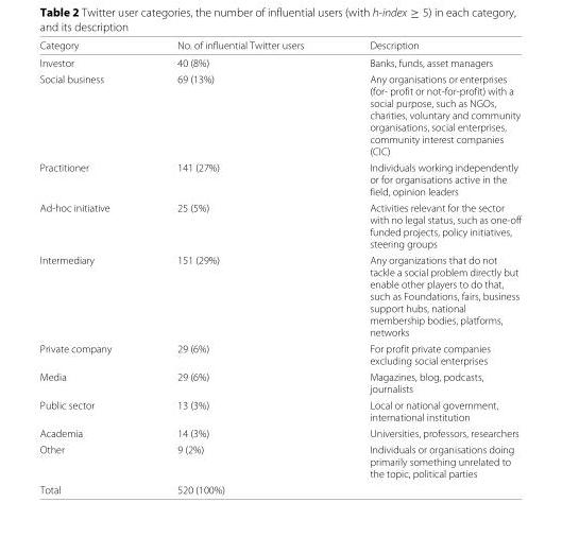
<table><thead><tr><td>Category</td><td>No. of influential Twitter users</td><td>Description</td></tr></thead><tbody><tr><td>Investor</td><td>40 (8%)</td><td>Banks, funds, asset managers</td></tr><tr><td>Social business</td><td>69 (13%)</td><td>Any organisations or enterprises (for- profit or not-for-profit) with a social purpose, such as NGOs, charities, voluntary and community organisations, social enterprises, community interest companies (CIC)</td></tr><tr><td>Practitioner</td><td>141 (27%)</td><td>Individuals working independently or for organisations active in the field, opinion leaders</td></tr><tr><td>Ad-hoc initiative</td><td>25 (5%)</td><td>Activities relevant for the sector with no legal status, such as one-off funded projects, policy initiatives, steering groups</td></tr><tr><td>Intermediary</td><td>151 (29%)</td><td>Any organizations that do not tackle a social problem directly but enable other players to do that, such as Foundations, fairs, business support hubs, national membership bodies, platforms, networks</td></tr><tr><td>Private company</td><td>29 (6%)</td><td>For profit private companies excluding social enterprises</td></tr><tr><td>Media</td><td>29 (6%)</td><td>Magazines, blog, podcasts, journalists</td></tr><tr><td>Public sector</td><td>13 (3%)</td><td>Local or national government, international institution</td></tr><tr><td>Academia</td><td>14 (3%)</td><td>Universities, professors, researchers</td></tr><tr><td>Other</td><td>9 (2%)</td><td>Individuals or organisations doing primarily something unrelated to the topic, political parties</td></tr><tr><td>Total</td><td>520 (100%)</td><td></td></tr></tbody></table>